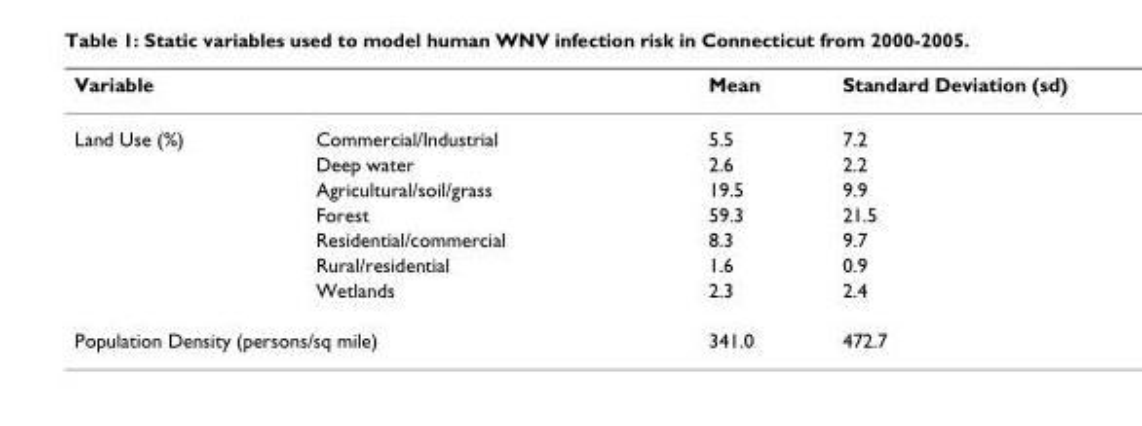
<table><thead><tr><td>Variable</td><td></td><td>Mean</td><td>Standard Deviation (sd)</td></tr></thead><tbody><tr><td rowspan="7">Land Use (%)</td><td>Commercial/Industrial</td><td>5.5</td><td>7.2</td></tr><tr><td>Deep water</td><td>2.6</td><td>2.2</td></tr><tr><td>Agricultural/soil/grass</td><td>19.5</td><td>9.9</td></tr><tr><td>Forest</td><td>59.3</td><td>21.5</td></tr><tr><td>Residential/commercial</td><td>8.3</td><td>9.7</td></tr><tr><td>Rural/residential</td><td>1.6</td><td>0.9</td></tr><tr><td>Wetlands</td><td>2.3</td><td>2.4</td></tr><tr><td colspan="2">Population Density (persons/sq mile)</td><td>341.0</td><td>472.7</td></tr></tbody></table>